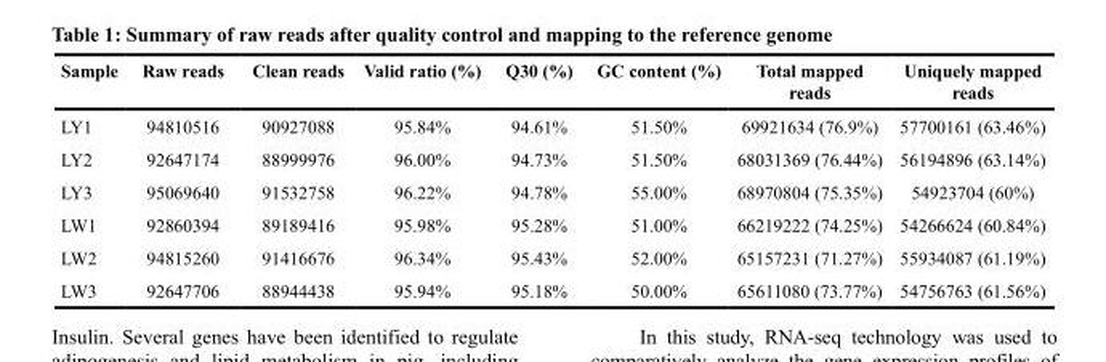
<table><thead><tr><td>Sample</td><td>Raw reads</td><td>Clean reads</td><td>Valid ratio (%)</td><td>Q30 (%)</td><td>GC content (%)</td><td>Total mapped reads</td><td>Uniquely mapped reads</td></tr></thead><tbody><tr><td>LY1</td><td>94810516</td><td>90927088</td><td>95.84%</td><td>94.61%</td><td>51.50%</td><td>69921634 (76.9%)</td><td>57700161 (63.46%)</td></tr><tr><td>LY2</td><td>92647174</td><td>88999976</td><td>96.00%</td><td>94.73%</td><td>51.50%</td><td>68031369 (76.44%)</td><td>56194896 (63.14%)</td></tr><tr><td>LY3</td><td>95069640</td><td>91532758</td><td>96.22%</td><td>94.78%</td><td>55.00%</td><td>68970804 (75.35%)</td><td>54923704 (60%)</td></tr><tr><td>LW1</td><td>92860394</td><td>89189416</td><td>95.98%</td><td>95.28%</td><td>51.00%</td><td>66219222 (74.25%)</td><td>54266624 (60.84%)</td></tr><tr><td>LW2</td><td>94815260</td><td>91416676</td><td>96.34%</td><td>95.43%</td><td>52.00%</td><td>65157231 (71.27%)</td><td>55934087 (61.19%)</td></tr><tr><td>LW3</td><td>92647706</td><td>88944438</td><td>95.94%</td><td>95.18%</td><td>50.00%</td><td>65611080 (73.77%)</td><td>54756763 (61.56%)</td></tr></tbody></table>